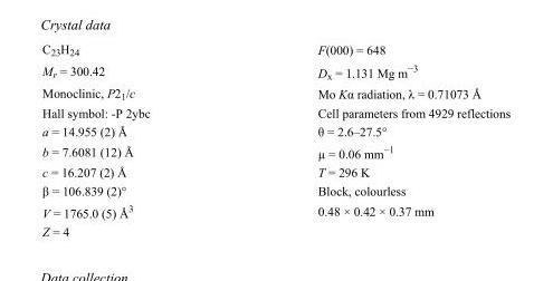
<table><tbody><tr><td>C<sub>23</sub>H<sub>24</sub></td><td>F(000) = 648</td></tr><tr><td>M<sub>r</sub> = 300.42</td><td>D<sub>x</sub> = 1.131 Mg m<sup>−3</sup></td></tr><tr><td>Monoclinic, P2<sub>1</sub>/c</td><td>Mo Kα radiation, λ = 0.71073 Å</td></tr><tr><td>Hall symbol: -P 2ybc</td><td>Cell parameters from 4929 reflections</td></tr><tr><td>a = 14.955 (2) Å</td><td>θ = 2.6–27.5°</td></tr><tr><td>b = 7.6081 (12) Å</td><td>µ = 0.06 mm<sup>−1</sup></td></tr><tr><td>c = 16.207 (2) Å</td><td>T = 296 K</td></tr><tr><td>β = 106.839 (2)°</td><td>Block, colourless</td></tr><tr><td>V = 1765.0 (5) Å<sup>3</sup></td><td>0.48 × 0.42 × 0.37 mm</td></tr><tr><td>Z = 4</td><td></td></tr></tbody></table>